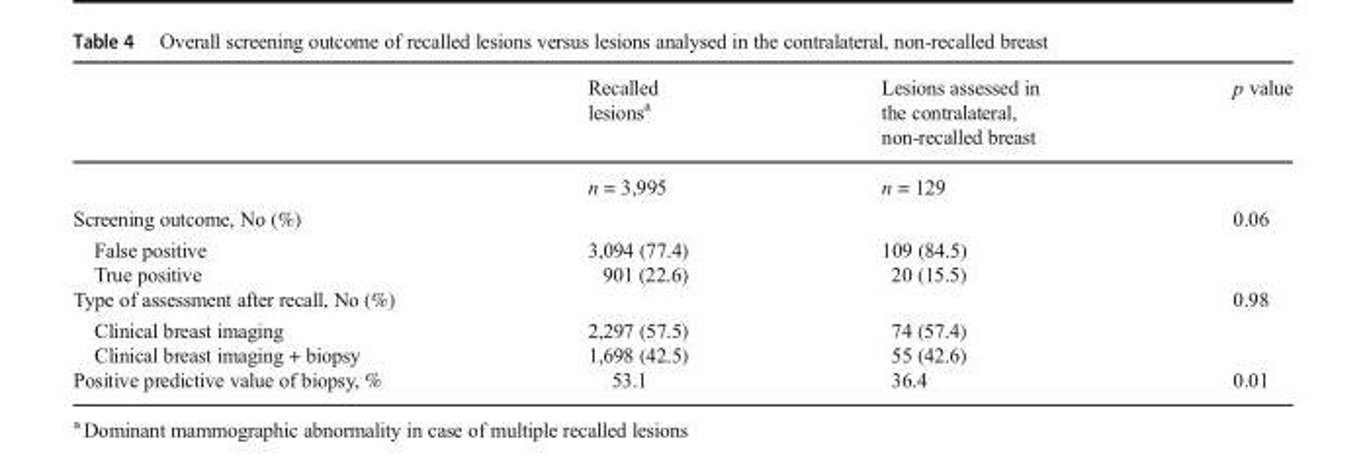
<table><thead><tr><td></td><td>Recalled lesions<sup>a</sup></td><td>Lesions assessed in the contralateral, non-recalled breast</td><td>p value</td></tr></thead><tbody><tr><td></td><td>n = 3,995</td><td>n = 129</td><td></td></tr><tr><td>Screening outcome, No (%)</td><td></td><td></td><td>0.06</td></tr><tr><td>False positive True positive</td><td>3,094 (77.4) 901 (22.6)</td><td>109 (84.5) 20 (15.5)</td><td></td></tr><tr><td>Type of assessment after recall, No (%)</td><td></td><td></td><td>0.98</td></tr><tr><td>Clinical breast imaging Clinical breast imaging + biopsy</td><td>2,297 (57.5) 1,698 (42.5)</td><td>74 (57.4) 55 (42.6)</td><td></td></tr><tr><td>Positive predictive value of biopsy, %</td><td>53.1</td><td>36.4</td><td>0.01</td></tr></tbody></table>